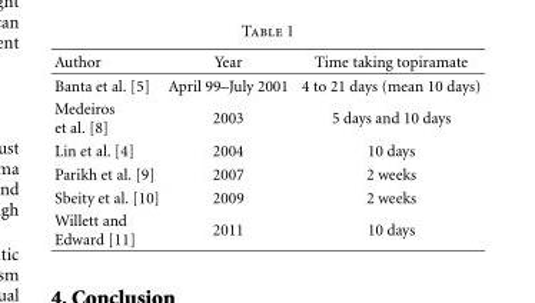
<table><thead><tr><td>Author</td><td>Year</td><td>Time taking topiramate</td></tr></thead><tbody><tr><td>Banta et al. [5]</td><td>April 99–July 2001</td><td>4 to 21 days (mean 10 days)</td></tr><tr><td>Medeiros et al. [8]</td><td>2003</td><td>5 days and 10 days</td></tr><tr><td>Lin et al. [4]</td><td>2004</td><td>10 days</td></tr><tr><td>Parikh et al. [9]</td><td>2007</td><td>2 weeks</td></tr><tr><td>Sbeity et al. [10]</td><td>2009</td><td>2 weeks</td></tr><tr><td>Willett and Edward [11]</td><td>2011</td><td>10 days</td></tr></tbody></table>